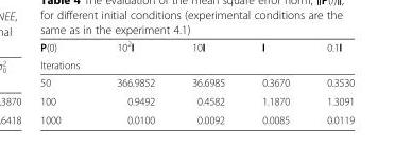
<table><thead><tr><td rowspan="2">P(0) Iterations</td><td rowspan="2">10<sup>2</sup>I</td><td rowspan="2">10I</td><td rowspan="2">I</td><td rowspan="2">0.1I</td></tr><tr></tr></thead><tbody><tr><td>50</td><td>366.9852</td><td>36.6985</td><td>0.3670</td><td>0.3530</td></tr><tr><td>100</td><td>0.9492</td><td>0.4582</td><td>1.1870</td><td>1.3091</td></tr><tr><td>1000</td><td>0.0100</td><td>0.0092</td><td>0.0085</td><td>0.0119</td></tr></tbody></table>